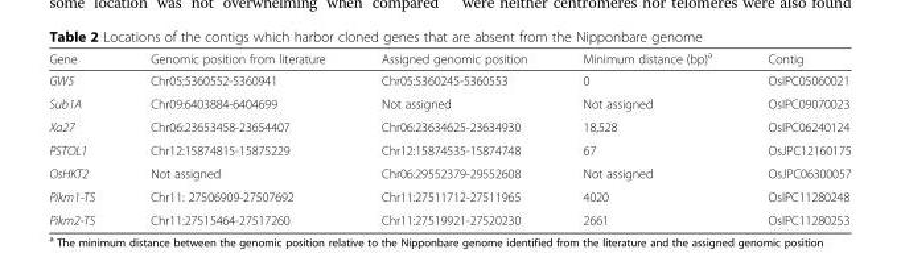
<table><thead><tr><td>Gene</td><td>Genomic position from literature</td><td>Assigned genomic position</td><td>Minimum distance (bp)<sup>a</sup></td><td>Contig</td></tr></thead><tbody><tr><td>GW5</td><td>Chr05:5360552-5360941</td><td>Chr05:5360245-5360553</td><td>0</td><td>OsIPC05060021</td></tr><tr><td>Sub1A</td><td>Chr09:6403884-6404699</td><td>Not assigned</td><td>Not assigned</td><td>OsIPC09070023</td></tr><tr><td>Xa27</td><td>Chr06:23653458-23654407</td><td>Chr06:23634625-23634930</td><td>18,528</td><td>OsIPC06240124</td></tr><tr><td>PSTOL1</td><td>Chr12:15874815-15875229</td><td>Chr12:15874535-15874748</td><td>67</td><td>OsJPC12160175</td></tr><tr><td>OsHKT2</td><td>Not assigned</td><td>Chr06:29552379-29552608</td><td>Not assigned</td><td>OsJPC06300057</td></tr><tr><td>Pikm1-TS</td><td>Chr11: 27506909-27507692</td><td>Chr11:27511712-27511965</td><td>4020</td><td>OsIPC11280248</td></tr><tr><td>Pikm2-TS</td><td>Chr11:27515464-27517260</td><td>Chr11:27519921-27520230</td><td>2661</td><td>OsIPC11280253</td></tr></tbody></table>